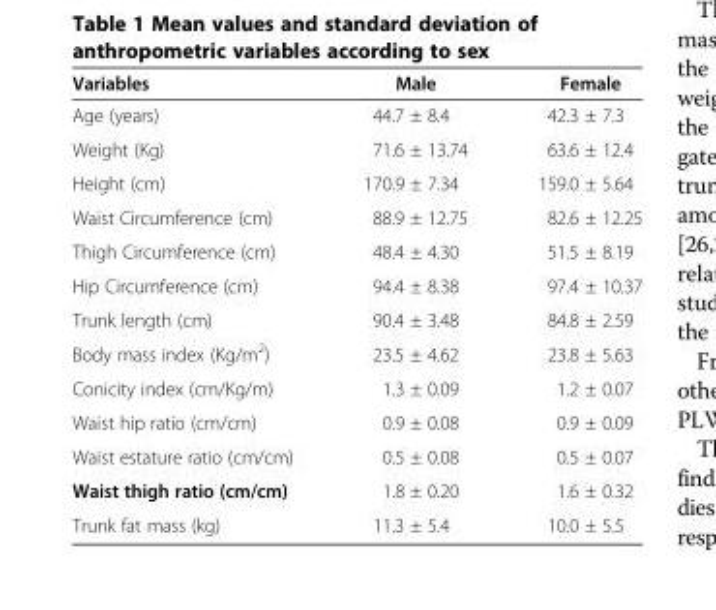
<table><thead><tr><td>Variables</td><td>Male</td><td>Female</td></tr></thead><tbody><tr><td>Age (years)</td><td>44.7 ± 8.4</td><td>42.3 ± 7.3</td></tr><tr><td>Weight (Kg)</td><td>71.6 ± 13.74</td><td>63.6 ± 12.4</td></tr><tr><td>Height (cm)</td><td>170.9 ± 7.34</td><td>159.0 ± 5.64</td></tr><tr><td>Waist Circumference (cm)</td><td>88.9 ± 12.75</td><td>82.6 ± 12.25</td></tr><tr><td>Thigh Circumference (cm)</td><td>48.4 ± 4.30</td><td>51.5 ± 8.19</td></tr><tr><td>Hip Circumference (cm)</td><td>94.4 ± 8.38</td><td>97.4 ± 10.37</td></tr><tr><td>Trunk length (cm)</td><td>90.4 ± 3.48</td><td>84.8 ± 2.59</td></tr><tr><td>Body mass index (Kg/m<sup>2</sup>)</td><td>23.5 ± 4.62</td><td>23.8 ± 5.63</td></tr><tr><td>Conicity index (cm/Kg/m)</td><td>1.3 ± 0.09</td><td>1.2 ± 0.07</td></tr><tr><td>Waist hip ratio (cm/cm)</td><td>0.9 ± 0.08</td><td>0.9 ± 0.09</td></tr><tr><td>Waist estature ratio (cm/cm)</td><td>0.5 ± 0.08</td><td>0.5 ± 0.07</td></tr><tr><td>Waist thigh ratio (cm/cm)</td><td>1.8 ± 0.20</td><td>1.6 ± 0.32</td></tr><tr><td>Trunk fat mass (kg)</td><td>11.3 ± 5.4</td><td>10.0 ± 5.5</td></tr></tbody></table>